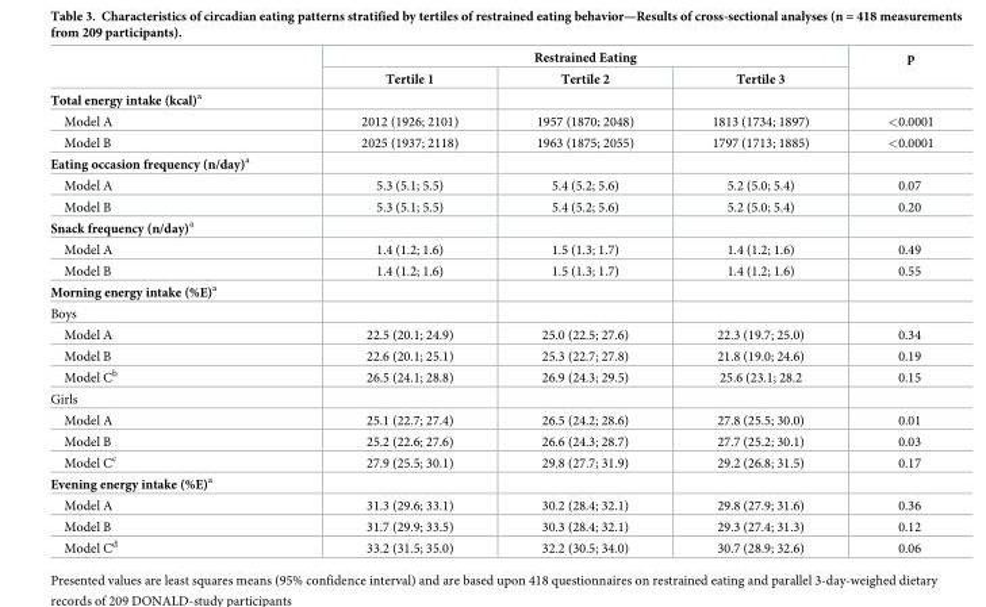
<table><thead><tr><td rowspan="2"></td><td colspan="3">Restrained Eating</td><td rowspan="2">p</td></tr><tr><td>Tertile 1</td><td>Tertile 2</td><td>Tertile 3</td></tr></thead><tbody><tr><td colspan="5">Total energy intake (kcal)<sup>a</sup></td></tr><tr><td>Model A</td><td>2012 (1926; 2101)</td><td>1957 (1870; 2048)</td><td>1813 (1734; 1897)</td><td>&lt;0.0001</td></tr><tr><td>Model B</td><td>2025 (1937; 2118)</td><td>1963 (1875; 2055)</td><td>1797 (1713; 1885)</td><td>&lt;0.0001</td></tr><tr><td colspan="5">Eating occasion frequency (n/day)<sup>a</sup></td></tr><tr><td>Model A</td><td>5.3 (5.1; 5.5)</td><td>5.4 (5.2; 5.6)</td><td>5.2 (5.0; 5.4)</td><td>0.07</td></tr><tr><td>Model B</td><td>5.3 (5.1; 5.5)</td><td>5.4 (5.2; 5.6)</td><td>5.2 (5.0; 5.4)</td><td>0.20</td></tr><tr><td colspan="5">Snack frequency (n/day)<sup>a</sup></td></tr><tr><td>Model A</td><td>1.4 (1.2; 1.6)</td><td>1.5 (1.3; 1.7)</td><td>1.4 (1.2; 1.6)</td><td>0.49</td></tr><tr><td>Model B</td><td>1.4 (1.2; 1.6)</td><td>1.5 (1.3; 1.7)</td><td>1.4 (1.2; 1.6)</td><td>0.55</td></tr><tr><td colspan="5">Morning energy intake (%E)<sup>a</sup></td></tr><tr><td colspan="5">Boys</td></tr><tr><td>Model A</td><td>22.5 (20.1; 24.9)</td><td>25.0 (22.5; 27.6)</td><td>22.3 (19.7; 25.0)</td><td>0.34</td></tr><tr><td>Model B</td><td>22.6 (20.1; 25.1)</td><td>25.3 (22.7; 27.8)</td><td>21.8 (19.0; 24.6)</td><td>0.19</td></tr><tr><td>Model C<sup>b</sup></td><td>26.5 (24.1; 28.8)</td><td>26.9 (24.3; 29.5)</td><td>25.6 (23.1; 28.2</td><td>0.15</td></tr><tr><td colspan="5">Girls</td></tr><tr><td>Model A</td><td>25.1 (22.7; 27.4)</td><td>26.5 (24.2; 28.6)</td><td>27.8 (25.5; 30.0)</td><td>0.01</td></tr><tr><td>Model B</td><td>25.2 (22.6; 27.6)</td><td>26.6 (24.3; 28.7)</td><td>27.7 (25.2; 30.1)</td><td>0.03</td></tr><tr><td>Model C<sup>c</sup></td><td>27.9 (25.5; 30.1)</td><td>29.8 (27.7; 31.9)</td><td>29.2 (26.8; 31.5)</td><td>0.17</td></tr><tr><td colspan="5">Evening energy intake (%E)<sup>a</sup></td></tr><tr><td>Model A</td><td>31.3 (29.6; 33.1)</td><td>30.2 (28.4; 32.1)</td><td>29.8 (27.9; 31.6)</td><td>0.36</td></tr><tr><td>Model B</td><td>31.7 (29.9; 33.5)</td><td>30.3 (28.4; 32.1)</td><td>29.3 (27.4; 31.3)</td><td>0.12</td></tr><tr><td>Model C<sup>d</sup></td><td>33.2 (31.5; 35.0)</td><td>32.2 (30.5; 34.0)</td><td>30.7 (28.9; 32.6)</td><td>0.06</td></tr></tbody></table>